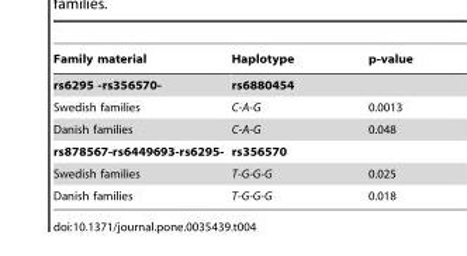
<table><thead><tr><td>Family material</td><td>Haplotype</td><td>p-value</td></tr></thead><tbody><tr><td>rs6295 -rs356570-</td><td>rs6880454</td><td></td></tr><tr><td>Swedish families</td><td>C-A-G</td><td>0.0013</td></tr><tr><td>Danish families</td><td>C-A-G</td><td>0.048</td></tr><tr><td>rs878567-rs6449693-rs6295-</td><td>rs356570</td><td></td></tr><tr><td>Swedish families</td><td>T-G-G-G</td><td>0.025</td></tr><tr><td>Danish families</td><td>T-G-G-G</td><td>0.018</td></tr></tbody></table>